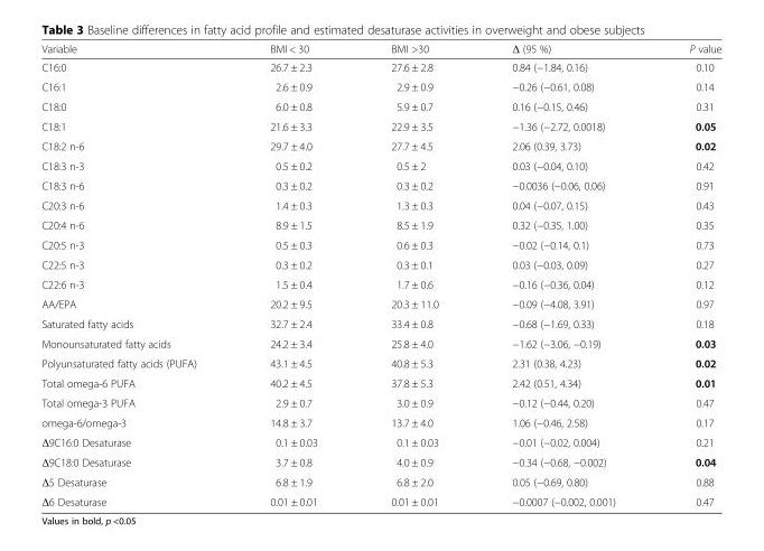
<table><thead><tr><td>Variable</td><td>BMI &lt; 30</td><td>BMI &gt;30</td><td>Δ (95 %)</td><td>P value</td></tr></thead><tbody><tr><td>C16:0</td><td>26.7 ± 2.3</td><td>27.6 ± 2.8</td><td>0.84 (−1.84, 0.16)</td><td>0.10</td></tr><tr><td>C16:1</td><td>2.6 ± 0.9</td><td>2.9 ± 0.9</td><td>−0.26 (−0.61, 0.08)</td><td>0.14</td></tr><tr><td>C18:0</td><td>6.0 ± 0.8</td><td>5.9 ± 0.7</td><td>0.16 (−0.15, 0.46)</td><td>0.31</td></tr><tr><td>C18:1</td><td>21.6 ± 3.3</td><td>22.9 ± 3.5</td><td>−1.36 (−2.72, 0.0018)</td><td>0.05</td></tr><tr><td>C18:2 n-6</td><td>29.7 ± 4.0</td><td>27.7 ± 4.5</td><td>2.06 (0.39, 3.73)</td><td>0.02</td></tr><tr><td>C18:3 n-3</td><td>0.5 ± 0.2</td><td>0.5 ± 2</td><td>0.03 (−0.04, 0.10)</td><td>0.42</td></tr><tr><td>C18:3 n-6</td><td>0.3 ± 0.2</td><td>0.3 ± 0.2</td><td>−0.0036 (−0.06, 0.06)</td><td>0.91</td></tr><tr><td>C20:3 n-6</td><td>1.4 ± 0.3</td><td>1.3 ± 0.3</td><td>0.04 (−0.07, 0.15)</td><td>0.43</td></tr><tr><td>C20:4 n-6</td><td>8.9 ± 1.5</td><td>8.5 ± 1.9</td><td>0.32 (−0.35, 1.00)</td><td>0.35</td></tr><tr><td>C20:5 n-3</td><td>0.5 ± 0.3</td><td>0.6 ± 0.3</td><td>−0.02 (−0.14, 0.1)</td><td>0.73</td></tr><tr><td>C22:5 n-3</td><td>0.3 ± 0.2</td><td>0.3 ± 0.1</td><td>0.03 (−0.03, 0.09)</td><td>0.27</td></tr><tr><td>C22:6 n-3</td><td>1.5 ± 0.4</td><td>1.7 ± 0.6</td><td>−0.16 (−0.36, 0.04)</td><td>0.12</td></tr><tr><td>AA/EPA</td><td>20.2 ± 9.5</td><td>20.3 ± 11.0</td><td>−0.09 (−4.08, 3.91)</td><td>0.97</td></tr><tr><td>Saturated fatty acids</td><td>32.7 ± 2.4</td><td>33.4 ± 0.8</td><td>−0.68 (−1.69, 0.33)</td><td>0.18</td></tr><tr><td>Monounsaturated fatty acids</td><td>24.2 ± 3.4</td><td>25.8 ± 4.0</td><td>−1.62 (−3.06, −0.19)</td><td>0.03</td></tr><tr><td>Polyunsaturated fatty acids (PUFA)</td><td>43.1 ± 4.5</td><td>40.8 ± 5.3</td><td>2.31 (0.38, 4.23)</td><td>0.02</td></tr><tr><td>Total omega-6 PUFA</td><td>40.2 ± 4.5</td><td>37.8 ± 5.3</td><td>2.42 (0.51, 4.34)</td><td>0.01</td></tr><tr><td>Total omega-3 PUFA</td><td>2.9 ± 0.7</td><td>3.0 ± 0.9</td><td>−0.12 (−0.44, 0.20)</td><td>0.47</td></tr><tr><td>omega-6/omega-3</td><td>14.8 ± 3.7</td><td>13.7 ± 4.0</td><td>1.06 (−0.46, 2.58)</td><td>0.17</td></tr><tr><td>Δ9C16:0 Desaturase</td><td>0.1 ± 0.03</td><td>0.1 ± 0.03</td><td>−0.01 (−0.02, 0.004)</td><td>0.21</td></tr><tr><td>Δ9C18:0 Desaturase</td><td>3.7 ± 0.8</td><td>4.0 ± 0.9</td><td>−0.34 (−0.68, −0.002)</td><td>0.04</td></tr><tr><td>Δ5 Desaturase</td><td>6.8 ± 1.9</td><td>6.8 ± 2.0</td><td>0.05 (−0.69, 0.80)</td><td>0.88</td></tr><tr><td>Δ6 Desaturase</td><td>0.01 ± 0.01</td><td>0.01 ± 0.01</td><td>−0.0007 (−0.002, 0.001)</td><td>0.47</td></tr></tbody></table>